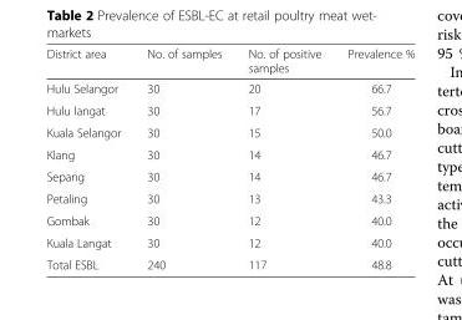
<table><thead><tr><td>District area</td><td>No. of samples</td><td>No. of positive samples</td><td>Prevalence %</td></tr></thead><tbody><tr><td>Hulu Selangor</td><td>30</td><td>20</td><td>66.7</td></tr><tr><td>Hulu langat</td><td>30</td><td>17</td><td>56.7</td></tr><tr><td>Kuala Selangor</td><td>30</td><td>15</td><td>50.0</td></tr><tr><td>Klang</td><td>30</td><td>14</td><td>46.7</td></tr><tr><td>Sepang</td><td>30</td><td>14</td><td>46.7</td></tr><tr><td>Petaling</td><td>30</td><td>13</td><td>43.3</td></tr><tr><td>Gombak</td><td>30</td><td>12</td><td>40.0</td></tr><tr><td>Kuala Langat</td><td>30</td><td>12</td><td>40.0</td></tr><tr><td>Total ESBL</td><td>240</td><td>117</td><td>48.8</td></tr></tbody></table>